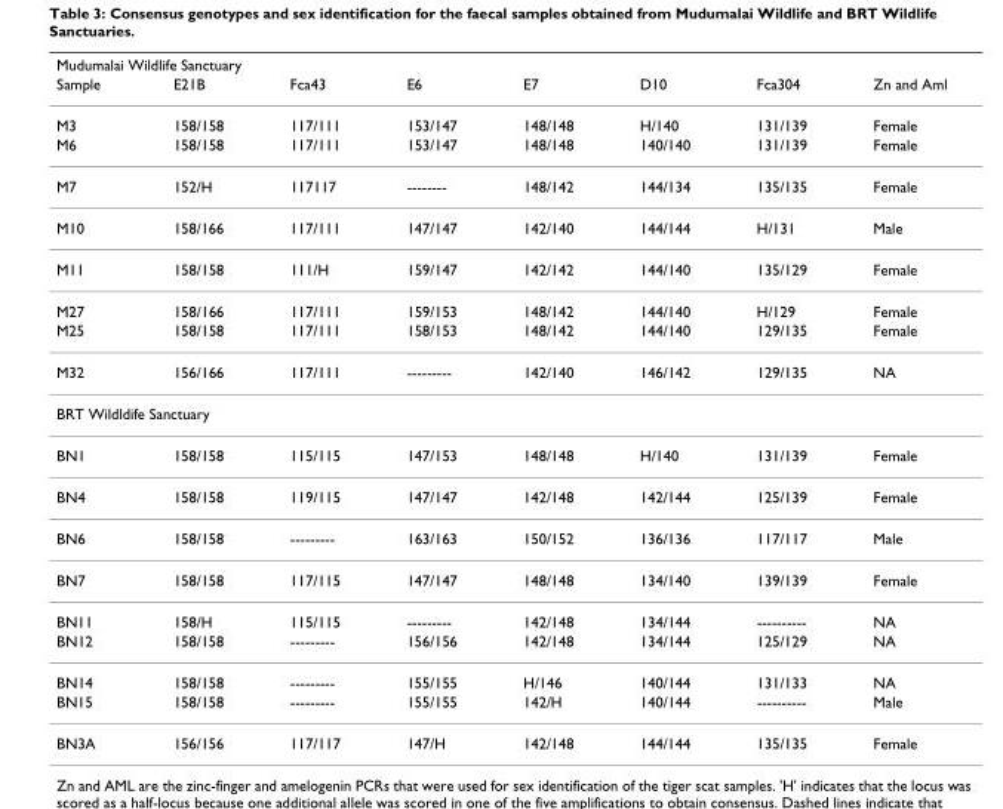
<table><thead><tr><td colspan="8">Mudumalai Wildlife Sanctuary</td></tr><tr><td>Sample</td><td>E21B</td><td>Fca43</td><td>E6</td><td>E7</td><td>D10</td><td>Fca304</td><td>Zn and Aml</td></tr></thead><tbody><tr><td>M3</td><td>158/158</td><td>117/111</td><td>153/147</td><td>148/148</td><td>H/140</td><td>131/139</td><td>Female</td></tr><tr><td>M6</td><td>158/158</td><td>117/111</td><td>153/147</td><td>148/148</td><td>140/140</td><td>131/139</td><td>Female</td></tr><tr><td>M7</td><td>152/H</td><td>117117</td><td>--------</td><td>148/142</td><td>144/134</td><td>135/135</td><td>Female</td></tr><tr><td>M10</td><td>158/166</td><td>117/111</td><td>147/147</td><td>142/140</td><td>144/144</td><td>H/131</td><td>Male</td></tr><tr><td>M11</td><td>158/158</td><td>111/H</td><td>159/147</td><td>142/142</td><td>144/140</td><td>135/129</td><td>Female</td></tr><tr><td>M27</td><td>158/166</td><td>117/111</td><td>159/153</td><td>148/142</td><td>144/140</td><td>H/129</td><td>Female</td></tr><tr><td>M25</td><td>158/158</td><td>117/111</td><td>158/153</td><td>148/142</td><td>144/140</td><td>129/135</td><td>Female</td></tr><tr><td>M32</td><td>156/166</td><td>117/111</td><td>---------</td><td>142/140</td><td>146/142</td><td>129/135</td><td>NA</td></tr><tr><td colspan="8">BRT Wildldife Sanctuary</td></tr><tr><td>BN1</td><td>158/158</td><td>115/115</td><td>147/153</td><td>148/148</td><td>H/140</td><td>131/139</td><td>Female</td></tr><tr><td>BN4</td><td>158/158</td><td>119/115</td><td>147/147</td><td>142/148</td><td>142/144</td><td>125/139</td><td>Female</td></tr><tr><td>BN6</td><td>158/158</td><td>---------</td><td>163/163</td><td>150/152</td><td>136/136</td><td>117/117</td><td>Male</td></tr><tr><td>BN7</td><td>158/158</td><td>117/115</td><td>147/147</td><td>148/148</td><td>134/140</td><td>139/139</td><td>Female</td></tr><tr><td>BN11</td><td>158/H</td><td>115/115</td><td>---------</td><td>142/148</td><td>134/144</td><td>----------</td><td>NA</td></tr><tr><td>BN12</td><td>158/158</td><td>---------</td><td>156/156</td><td>142/148</td><td>134/144</td><td>125/129</td><td>NA</td></tr><tr><td>BN14</td><td>158/158</td><td>---------</td><td>155/155</td><td>H/146</td><td>140/144</td><td>131/133</td><td>NA</td></tr><tr><td>BN15</td><td>158/158</td><td>---------</td><td>155/155</td><td>142/H</td><td>140/144</td><td>----------</td><td>Male</td></tr><tr><td>BN3A</td><td>156/156</td><td>117/117</td><td>147/H</td><td>142/148</td><td>144/144</td><td>135/135</td><td>Female</td></tr></tbody></table>